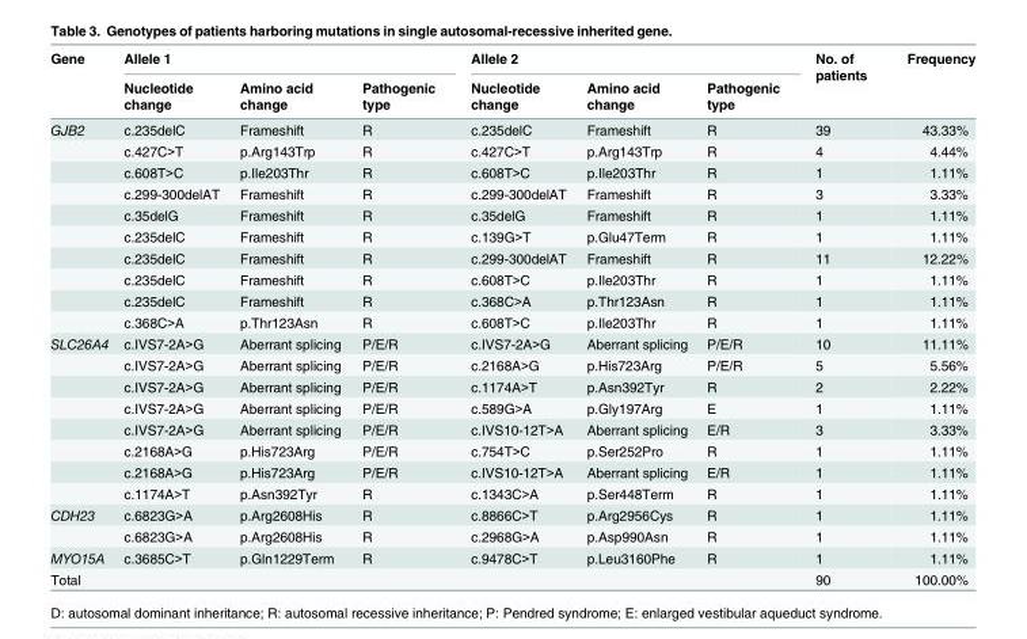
<table><thead><tr><td rowspan="2">Gene</td><td colspan="3">Allele 1</td><td colspan="3">Allele 2</td><td rowspan="2">No. of patients</td><td rowspan="2">Frequency</td></tr><tr><td>Nucleotide change</td><td>Amino acid change</td><td>Pathogenic type</td><td>Nucleotide change</td><td>Amino acid change</td><td>Pathogenic type</td></tr></thead><tbody><tr><td rowspan="10">GJB2</td><td>c.235delC</td><td>Frameshift</td><td>R</td><td>c.235delC</td><td>Frameshift</td><td>R</td><td>39</td><td>43.33%</td></tr><tr><td>c.427C&gt;T</td><td>p.Arg143Trp</td><td>R</td><td>c.427C&gt;T</td><td>p.Arg143Trp</td><td>R</td><td>4</td><td>4.44%</td></tr><tr><td>c.608T&gt;C</td><td>p.Ile203Thr</td><td>R</td><td>c.608T&gt;C</td><td>p.Ile203Thr</td><td>R</td><td>1</td><td>1.11%</td></tr><tr><td>c.299-300delAT</td><td>Frameshift</td><td>R</td><td>c.299-300delAT</td><td>Frameshift</td><td>R</td><td>3</td><td>3.33%</td></tr><tr><td>c.35delG</td><td>Frameshift</td><td>R</td><td>c.35delG</td><td>Frameshift</td><td>R</td><td>1</td><td>1.11%</td></tr><tr><td>c.235delC</td><td>Frameshift</td><td>R</td><td>c.139G&gt;T</td><td>p.Glu47Term</td><td>R</td><td>1</td><td>1.11%</td></tr><tr><td>c.235delC</td><td>Frameshift</td><td>R</td><td>c.299-300delAT</td><td>Frameshift</td><td>R</td><td>11</td><td>12.22%</td></tr><tr><td>c.235delC</td><td>Frameshift</td><td>R</td><td>c.608T&gt;C</td><td>p.Ile203Thr</td><td>R</td><td>1</td><td>1.11%</td></tr><tr><td>c.235delC</td><td>Frameshift</td><td>R</td><td>c.368C&gt;A</td><td>p.Thr123Asn</td><td>R</td><td>1</td><td>1.11%</td></tr><tr><td>c.368C&gt;A</td><td>p.Thr123Asn</td><td>R</td><td>c.608T&gt;C</td><td>p.Ile203Thr</td><td>R</td><td>1</td><td>1.11%</td></tr><tr><td rowspan="8">SLC26A4</td><td>c.IVS7-2A&gt;G</td><td>Aberrant splicing</td><td>P/E/R</td><td>c.IVS7-2A&gt;G</td><td>Aberrant splicing</td><td>P/E/R</td><td>10</td><td>11.11%</td></tr><tr><td>c.IVS7-2A&gt;G</td><td>Aberrant splicing</td><td>P/E/R</td><td>c.2168A&gt;G</td><td>p.His723Arg</td><td>P/E/R</td><td>5</td><td>5.56%</td></tr><tr><td>c.IVS7-2A&gt;G</td><td>Aberrant splicing</td><td>P/E/R</td><td>c.1174A&gt;T</td><td>p.Asn392Tyr</td><td>R</td><td>2</td><td>2.22%</td></tr><tr><td>c.IVS7-2A&gt;G</td><td>Aberrant splicing</td><td>P/E/R</td><td>c.589G&gt;A</td><td>p.Gly197Arg</td><td>E</td><td>1</td><td>1.11%</td></tr><tr><td>c.IVS7-2A&gt;G</td><td>Aberrant splicing</td><td>P/E/R</td><td>c.IVS10-12T&gt;A</td><td>Aberrant splicing</td><td>E/R</td><td>3</td><td>3.33%</td></tr><tr><td>c.2168A&gt;G</td><td>p.His723Arg</td><td>P/E/R</td><td>c.754T&gt;C</td><td>p.Ser252Pro</td><td>R</td><td>1</td><td>1.11%</td></tr><tr><td>c.2168A&gt;G</td><td>p.His723Arg</td><td>P/E/R</td><td>c.IVS10-12T&gt;A</td><td>Aberrant splicing</td><td>E/R</td><td>1</td><td>1.11%</td></tr><tr><td>c.1174A&gt;T</td><td>p.Asn392Tyr</td><td>R</td><td>c.1343C&gt;A</td><td>p.Ser448Term</td><td>R</td><td>1</td><td>1.11%</td></tr><tr><td rowspan="2">CDH23</td><td>c.6823G&gt;A</td><td>p.Arg2608His</td><td>R</td><td>c.8866C&gt;T</td><td>p.Arg2956Cys</td><td>R</td><td>1</td><td>1.11%</td></tr><tr><td>c.6823G&gt;A</td><td>p.Arg2608His</td><td>R</td><td>c.2968G&gt;A</td><td>p.Asp990Asn</td><td>R</td><td>1</td><td>1.11%</td></tr><tr><td>MYO15A</td><td>c.3685C&gt;T</td><td>p.Gln1229Term</td><td>R</td><td>c.9478C&gt;T</td><td>p.Leu3160Phe</td><td>R</td><td>1</td><td>1.11%</td></tr><tr><td>Total</td><td></td><td></td><td></td><td></td><td></td><td></td><td>90</td><td>100.00%</td></tr></tbody></table>